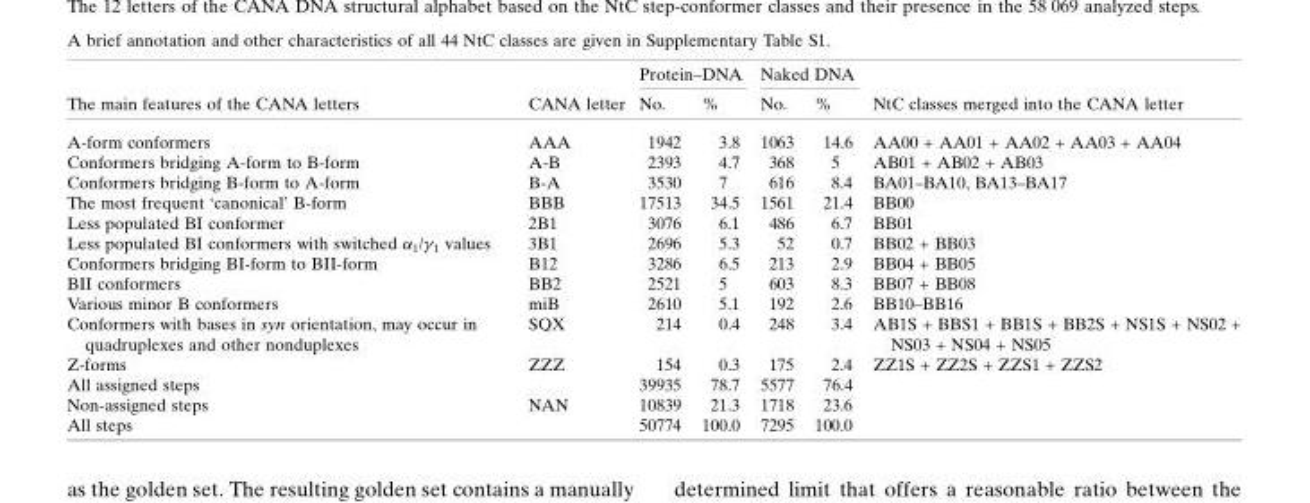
<table><thead><tr><td rowspan="2">The main features of the CANA letters</td><td rowspan="2">CANA letter</td><td colspan="2">Protein–DNA</td><td colspan="2">Naked DNA</td><td rowspan="2">NtC classes merged into the CANA letter</td></tr><tr><td>No.</td><td>%</td><td>No.</td><td>%</td></tr></thead><tbody><tr><td>A-form conformers</td><td>AAA</td><td>1942</td><td>3.8</td><td>1063</td><td>14.6</td><td>AA00 + AA01 + AA02 + AA03 + AA04</td></tr><tr><td>Conformers bridging A-form to B-form</td><td>A-B</td><td>2393</td><td>4.7</td><td>368</td><td>5</td><td>AB01 + AB02 + AB03</td></tr><tr><td>Conformers bridging B-form to A-form</td><td>B-A</td><td>3530</td><td>7</td><td>616</td><td>8.4</td><td>BA01–BA10, BA13–BA17</td></tr><tr><td>The most frequent ‘canonical’ B-form</td><td>BBB</td><td>17513</td><td>34.5</td><td>1561</td><td>21.4</td><td>BB00</td></tr><tr><td>Less populated BI conformer</td><td>2B1</td><td>3076</td><td>6.1</td><td>486</td><td>6.7</td><td>BB01</td></tr><tr><td>Less populated BI conformers with switched α<sub>1</sub>/γ<sub>1</sub> values</td><td>3B1</td><td>2696</td><td>5.3</td><td>52</td><td>0.7</td><td>BB02 + BB03</td></tr><tr><td>Conformers bridging BI-form to BII-form</td><td>B12</td><td>3286</td><td>6.5</td><td>213</td><td>2.9</td><td>BB04 + BB05</td></tr><tr><td>BII conformers</td><td>BB2</td><td>2521</td><td>5</td><td>603</td><td>8.3</td><td>BB07 + BB08</td></tr><tr><td>Various minor B conformers</td><td>miB</td><td>2610</td><td>5.1</td><td>192</td><td>2.6</td><td>BB10–BB16</td></tr><tr><td>Conformers with bases in syn orientation, may occur in quadruplexes and other nonduplexes</td><td>SQX</td><td>214</td><td>0.4</td><td>248</td><td>3.4</td><td>AB1S + BBS1 + BB1S + BB2S + NS1S + NS02 + NS03 + NS04 + NS05</td></tr><tr><td>Z-forms</td><td>ZZZ</td><td>154</td><td>0.3</td><td>175</td><td>2.4</td><td>ZZ1S + ZZ2S + ZZS1 + ZZS2</td></tr><tr><td>All assigned steps</td><td></td><td>39935</td><td>78.7</td><td>5577</td><td>76.4</td><td></td></tr><tr><td>Non-assigned steps</td><td>NAN</td><td>10839</td><td>21.3</td><td>1718</td><td>23.6</td><td></td></tr><tr><td>All steps</td><td></td><td>50774</td><td>100.0</td><td>7295</td><td>100.0</td><td></td></tr></tbody></table>